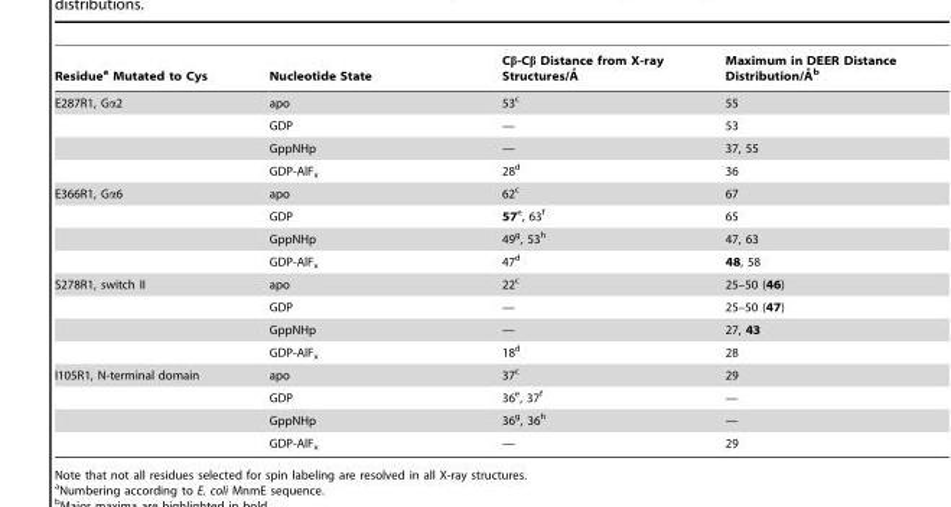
<table><thead><tr><td>Residue<sup>a</sup> Mutated to Cys</td><td>Nucleotide State</td><td>Cb-Cb Distance from X-ray Structures/A˚</td><td>Maximum in DEER Distance Distribution/A˚ b</td></tr></thead><tbody><tr><td rowspan="4">E287R1, Gα2</td><td>apo</td><td>53<sup>c</sup></td><td>55</td></tr><tr><td>GDP</td><td>—</td><td>53</td></tr><tr><td>GppNHp</td><td>—</td><td>37, 55</td></tr><tr><td>GDP-AlF<sub>x</sub></td><td>28<sup>d</sup></td><td>36</td></tr><tr><td rowspan="4">E366R1, Gα6</td><td>apo</td><td>62<sup>c</sup></td><td>67</td></tr><tr><td>GDP</td><td>57e, 63<sup>f</sup></td><td>65</td></tr><tr><td>GppNHp</td><td>49<sup>g</sup>, 53<sup>h</sup></td><td>47, 63</td></tr><tr><td>GDP-AlF<sub>x</sub></td><td>47<sup>d</sup></td><td>48, 58</td></tr><tr><td rowspan="4">S278R1, switch II</td><td>apo</td><td>22<sup>c</sup></td><td>25–50 (46)</td></tr><tr><td>GDP</td><td>—</td><td>25–50 (47)</td></tr><tr><td>GppNHp</td><td>—</td><td>27, 43</td></tr><tr><td>GDP-AlF<sub>x</sub></td><td>18<sup>d</sup></td><td>28</td></tr><tr><td rowspan="4">I105R1, N-terminal domain</td><td>apo</td><td>37<sup>c</sup></td><td>29</td></tr><tr><td>GDP</td><td>36<sup>e</sup>, 37<sup>f</sup></td><td>—</td></tr><tr><td>GppNHp</td><td>36<sup>g</sup>, 36<sup>h</sup></td><td>—</td></tr><tr><td>GDP-AlF<sub>x</sub></td><td>—</td><td>29</td></tr></tbody></table>